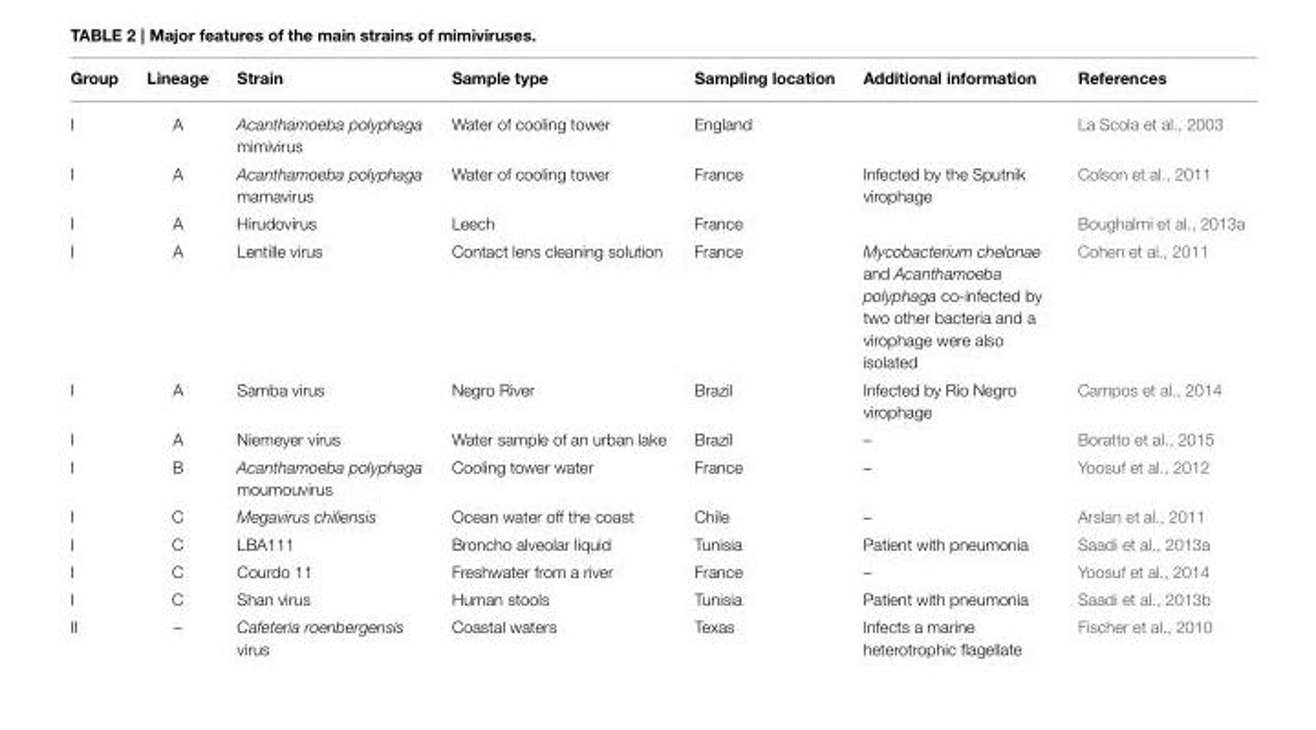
<table><thead><tr><td>Group</td><td>Lineage</td><td>Strain</td><td>Sample type</td><td>Sampling location</td><td>Additional information</td><td>References</td></tr></thead><tbody><tr><td>I</td><td>A</td><td>Acanthamoeba polyphaga mimivirus</td><td>Water of cooling tower</td><td>England</td><td></td><td>La Scola et al., 2003</td></tr><tr><td>I</td><td>A</td><td>Acanthamoeba polyphaga mamavirus</td><td>Water of cooling tower</td><td>France</td><td>Infected by the Sputnik virophage</td><td>Colson et al., 2011</td></tr><tr><td>I</td><td>A</td><td>Hirudovirus</td><td>Leech</td><td>France</td><td></td><td>Boughalmi et al., 2013a</td></tr><tr><td>I</td><td>A</td><td>Lentille virus</td><td>Contact lens cleaning solution</td><td>France</td><td>Mycobacterium chelonae and Acanthamoeba polyphaga co-infected by two other bacteria and a virophage were also isolated</td><td>Cohen et al., 2011</td></tr><tr><td>I</td><td>A</td><td>Samba virus</td><td>Negro River</td><td>Brazil</td><td>Infected by Rio Negro virophage</td><td>Campos et al., 2014</td></tr><tr><td>I</td><td>A</td><td>Niemeyer virus</td><td>Water sample of an urban lake</td><td>Brazil</td><td>–</td><td>Boratto et al., 2015</td></tr><tr><td>I</td><td>B</td><td>Acanthamoeba polyphaga moumouvirus</td><td>Cooling tower water</td><td>France</td><td>–</td><td>Yoosuf et al., 2012</td></tr><tr><td>I</td><td>C</td><td>Megavirus chiliensis</td><td>Ocean water off the coast</td><td>Chile</td><td>–</td><td>Arslan et al., 2011</td></tr><tr><td>I</td><td>C</td><td>LBA111</td><td>Broncho alveolar liquid</td><td>Tunisia</td><td>Patient with pneumonia</td><td>Saadi et al., 2013a</td></tr><tr><td>I</td><td>C</td><td>Courdo 11</td><td>Freshwater from a river</td><td>France</td><td>–</td><td>Yoosuf et al., 2014</td></tr><tr><td>I</td><td>C</td><td>Shan virus</td><td>Human stools</td><td>Tunisia</td><td>Patient with pneumonia</td><td>Saadi et al., 2013b</td></tr><tr><td>II</td><td>–</td><td>Cafeteria roenbergensis virus</td><td>Coastal waters</td><td>Texas</td><td>Infects a marine heterotrophic flagellate</td><td>Fischer et al., 2010</td></tr></tbody></table>